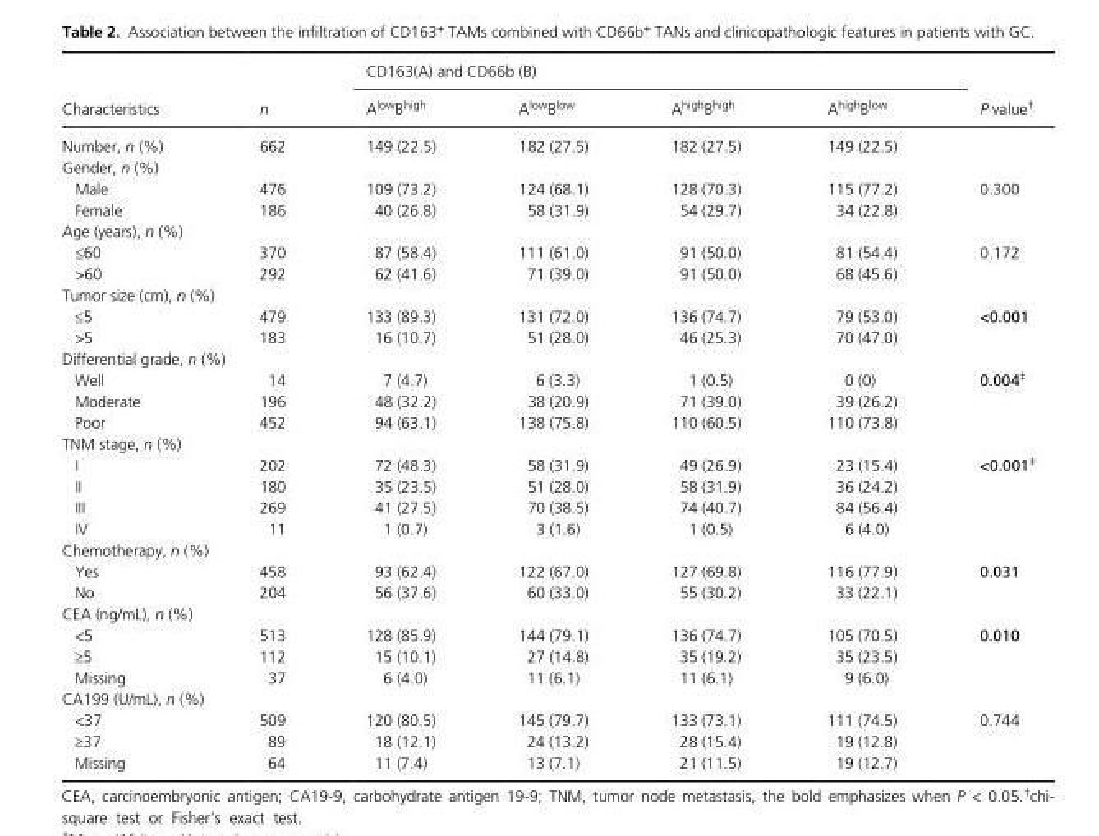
<table><thead><tr><td rowspan="2">Characteristics</td><td rowspan="2">n</td><td colspan="4">CD163(A) and CD66b (B)</td><td rowspan="2">P value†</td></tr><tr><td>A<sup>low</sup>B<sup>high</sup></td><td>A<sup>low</sup>B<sup>low</sup></td><td>A<sup>high</sup>B<sup>high</sup></td><td>A<sup>high</sup>B<sup>low</sup></td></tr></thead><tbody><tr><td>Number, n (%)</td><td>662</td><td>149 (22.5)</td><td>182 (27.5)</td><td>182 (27.5)</td><td>149 (22.5)</td><td></td></tr><tr><td colspan="7">Gender, n (%)</td></tr><tr><td>Male</td><td>476</td><td>109 (73.2)</td><td>124 (68.1)</td><td>128 (70.3)</td><td>115 (77.2)</td><td rowspan="2">0.300</td></tr><tr><td>Female</td><td>186</td><td>40 (26.8)</td><td>58 (31.9)</td><td>54 (29.7)</td><td>34 (22.8)</td></tr><tr><td colspan="7">Age (years), n (%)</td></tr><tr><td>≤60</td><td>370</td><td>87 (58.4)</td><td>111 (61.0)</td><td>91 (50.0)</td><td>81 (54.4)</td><td rowspan="2">0.172</td></tr><tr><td>&gt;60</td><td>292</td><td>62 (41.6)</td><td>71 (39.0)</td><td>91 (50.0)</td><td>68 (45.6)</td></tr><tr><td colspan="7">Tumor size (cm), n (%)</td></tr><tr><td>≤5</td><td>479</td><td>133 (89.3)</td><td>131 (72.0)</td><td>136 (74.7)</td><td>79 (53.0)</td><td rowspan="2">&lt;0.001</td></tr><tr><td>&gt;5</td><td>183</td><td>16 (10.7)</td><td>51 (28.0)</td><td>46 (25.3)</td><td>70 (47.0)</td></tr><tr><td colspan="7">Differential grade, n (%)</td></tr><tr><td>Well</td><td>14</td><td>7 (4.7)</td><td>6 (3.3)</td><td>1 (0.5)</td><td>0 (0)</td><td rowspan="3">0.004‡</td></tr><tr><td>Moderate</td><td>196</td><td>48 (32.2)</td><td>38 (20.9)</td><td>71 (39.0)</td><td>39 (26.2)</td></tr><tr><td>Poor</td><td>452</td><td>94 (63.1)</td><td>138 (75.8)</td><td>110 (60.5)</td><td>110 (73.8)</td></tr><tr><td colspan="7">TNM stage, n (%)</td></tr><tr><td>I</td><td>202</td><td>72 (48.3)</td><td>58 (31.9)</td><td>49 (26.9)</td><td>23 (15.4)</td><td rowspan="4">&lt;0.001‡</td></tr><tr><td>II</td><td>180</td><td>35 (23.5)</td><td>51 (28.0)</td><td>58 (31.9)</td><td>36 (24.2)</td></tr><tr><td>III</td><td>269</td><td>41 (27.5)</td><td>70 (38.5)</td><td>74 (40.7)</td><td>84 (56.4)</td></tr><tr><td>IV</td><td>11</td><td>1 (0.7)</td><td>3 (1.6)</td><td>1 (0.5)</td><td>6 (4.0)</td></tr><tr><td colspan="7">Chemotherapy, n (%)</td></tr><tr><td>Yes</td><td>458</td><td>93 (62.4)</td><td>122 (67.0)</td><td>127 (69.8)</td><td>116 (77.9)</td><td rowspan="2">0.031</td></tr><tr><td>No</td><td>204</td><td>56 (37.6)</td><td>60 (33.0)</td><td>55 (30.2)</td><td>33 (22.1)</td></tr><tr><td colspan="7">CEA (ng/mL), n (%)</td></tr><tr><td>&lt;5</td><td>513</td><td>128 (85.9)</td><td>144 (79.1)</td><td>136 (74.7)</td><td>105 (70.5)</td><td rowspan="3">0.010</td></tr><tr><td>≥5</td><td>112</td><td>15 (10.1)</td><td>27 (14.8)</td><td>35 (19.2)</td><td>35 (23.5)</td></tr><tr><td>Missing</td><td>37</td><td>6 (4.0)</td><td>11 (6.1)</td><td>11 (6.1)</td><td>9 (6.0)</td></tr><tr><td colspan="7">CA199 (U/mL), n (%)</td></tr><tr><td>&lt;37</td><td>509</td><td>120 (80.5)</td><td>145 (79.7)</td><td>133 (73.1)</td><td>111 (74.5)</td><td rowspan="3">0.744</td></tr><tr><td>≥37</td><td>89</td><td>18 (12.1)</td><td>24 (13.2)</td><td>28 (15.4)</td><td>19 (12.8)</td></tr><tr><td>Missing</td><td>64</td><td>11 (7.4)</td><td>13 (7.1)</td><td>21 (11.5)</td><td>19 (12.7)</td></tr></tbody></table>